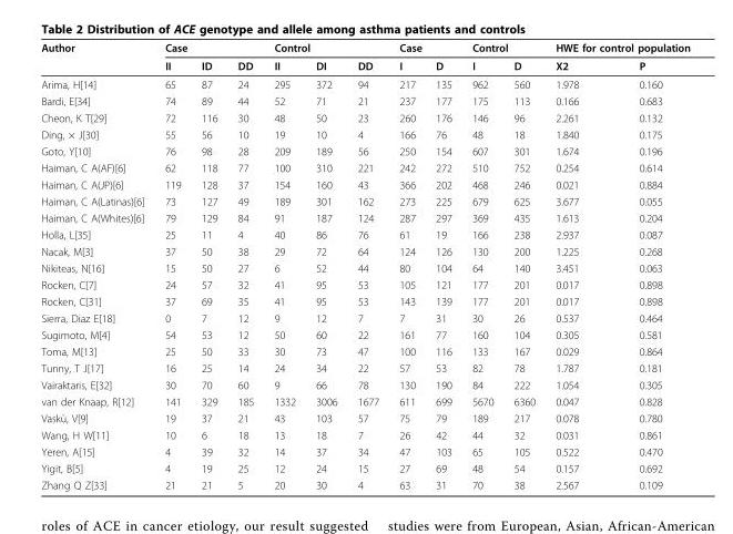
<table><thead><tr><td rowspan="2">Author</td><td colspan="3">Case</td><td colspan="3">Control</td><td colspan="2">Case</td><td colspan="2">Control</td><td colspan="2">HWE for control population</td></tr><tr><td>II</td><td>ID</td><td>DD</td><td>II</td><td>DI</td><td>DD</td><td>I</td><td>D</td><td>I</td><td>D</td><td>X2</td><td>P</td></tr></thead><tbody><tr><td>Arima, H[14]</td><td>65</td><td>87</td><td>24</td><td>295</td><td>372</td><td>94</td><td>217</td><td>135</td><td>962</td><td>560</td><td>1.978</td><td>0.160</td></tr><tr><td>Bardi, E[34]</td><td>74</td><td>89</td><td>44</td><td>52</td><td>71</td><td>21</td><td>237</td><td>177</td><td>175</td><td>113</td><td>0.166</td><td>0.683</td></tr><tr><td>Cheon, K T[29]</td><td>72</td><td>116</td><td>30</td><td>48</td><td>50</td><td>23</td><td>260</td><td>176</td><td>146</td><td>96</td><td>2.261</td><td>0.132</td></tr><tr><td>Ding, × J[30]</td><td>55</td><td>56</td><td>10</td><td>19</td><td>10</td><td>4</td><td>166</td><td>76</td><td>48</td><td>18</td><td>1.840</td><td>0.175</td></tr><tr><td>Goto, Y[10]</td><td>76</td><td>98</td><td>28</td><td>209</td><td>189</td><td>56</td><td>250</td><td>154</td><td>607</td><td>301</td><td>1.674</td><td>0.196</td></tr><tr><td>Haiman, C A(AF)[6]</td><td>62</td><td>118</td><td>77</td><td>100</td><td>310</td><td>221</td><td>242</td><td>272</td><td>510</td><td>752</td><td>0.254</td><td>0.614</td></tr><tr><td>Haiman, C A(JP)[6]</td><td>119</td><td>128</td><td>37</td><td>154</td><td>160</td><td>43</td><td>366</td><td>202</td><td>468</td><td>246</td><td>0.021</td><td>0.884</td></tr><tr><td>Haiman, C A(Latinas)[6]</td><td>73</td><td>127</td><td>49</td><td>189</td><td>301</td><td>162</td><td>273</td><td>225</td><td>679</td><td>625</td><td>3.677</td><td>0.055</td></tr><tr><td>Haiman, C A(Whites)[6]</td><td>79</td><td>129</td><td>84</td><td>91</td><td>187</td><td>124</td><td>287</td><td>297</td><td>369</td><td>435</td><td>1.613</td><td>0.204</td></tr><tr><td>Holla, L[35]</td><td>25</td><td>11</td><td>4</td><td>40</td><td>86</td><td>76</td><td>61</td><td>19</td><td>166</td><td>238</td><td>2.937</td><td>0.087</td></tr><tr><td>Nacak, M[3]</td><td>37</td><td>50</td><td>38</td><td>29</td><td>72</td><td>64</td><td>124</td><td>126</td><td>130</td><td>200</td><td>1.225</td><td>0.268</td></tr><tr><td>Nikiteas, N[16]</td><td>15</td><td>50</td><td>27</td><td>6</td><td>52</td><td>44</td><td>80</td><td>104</td><td>64</td><td>140</td><td>3.451</td><td>0.063</td></tr><tr><td>Rocken, C[7]</td><td>24</td><td>57</td><td>32</td><td>41</td><td>95</td><td>53</td><td>105</td><td>121</td><td>177</td><td>201</td><td>0.017</td><td>0.898</td></tr><tr><td>Rocken, C[31]</td><td>37</td><td>69</td><td>35</td><td>41</td><td>95</td><td>53</td><td>143</td><td>139</td><td>177</td><td>201</td><td>0.017</td><td>0.898</td></tr><tr><td>Sierra, Diaz E[18]</td><td>0</td><td>7</td><td>12</td><td>9</td><td>12</td><td>7</td><td>7</td><td>31</td><td>30</td><td>26</td><td>0.537</td><td>0.464</td></tr><tr><td>Sugimoto, M[4]</td><td>54</td><td>53</td><td>12</td><td>50</td><td>60</td><td>22</td><td>161</td><td>77</td><td>160</td><td>104</td><td>0.305</td><td>0.581</td></tr><tr><td>Toma, M[13]</td><td>25</td><td>50</td><td>33</td><td>30</td><td>73</td><td>47</td><td>100</td><td>116</td><td>133</td><td>167</td><td>0.029</td><td>0.864</td></tr><tr><td>Tunny, T J[17]</td><td>16</td><td>25</td><td>14</td><td>24</td><td>34</td><td>22</td><td>57</td><td>53</td><td>82</td><td>78</td><td>1.787</td><td>0.181</td></tr><tr><td>Vairaktaris, E[32]</td><td>30</td><td>70</td><td>60</td><td>9</td><td>66</td><td>78</td><td>130</td><td>190</td><td>84</td><td>222</td><td>1.054</td><td>0.305</td></tr><tr><td>van der Knaap, R[12]</td><td>141</td><td>329</td><td>185</td><td>1332</td><td>3006</td><td>1677</td><td>611</td><td>699</td><td>5670</td><td>6360</td><td>0.047</td><td>0.828</td></tr><tr><td>Vaskù, V[9]</td><td>19</td><td>37</td><td>21</td><td>43</td><td>103</td><td>57</td><td>75</td><td>79</td><td>189</td><td>217</td><td>0.078</td><td>0.780</td></tr><tr><td>Wang, H W[11]</td><td>10</td><td>6</td><td>18</td><td>13</td><td>18</td><td>7</td><td>26</td><td>42</td><td>44</td><td>32</td><td>0.031</td><td>0.861</td></tr><tr><td>Yeren, A[15]</td><td>4</td><td>39</td><td>32</td><td>14</td><td>37</td><td>34</td><td>47</td><td>103</td><td>65</td><td>105</td><td>0.522</td><td>0.470</td></tr><tr><td>Yigit, B[5]</td><td>4</td><td>19</td><td>25</td><td>12</td><td>24</td><td>15</td><td>27</td><td>69</td><td>48</td><td>54</td><td>0.157</td><td>0.692</td></tr><tr><td>Zhang Q Z[33]</td><td>21</td><td>21</td><td>5</td><td>20</td><td>30</td><td>4</td><td>63</td><td>31</td><td>70</td><td>38</td><td>2.567</td><td>0.109</td></tr></tbody></table>